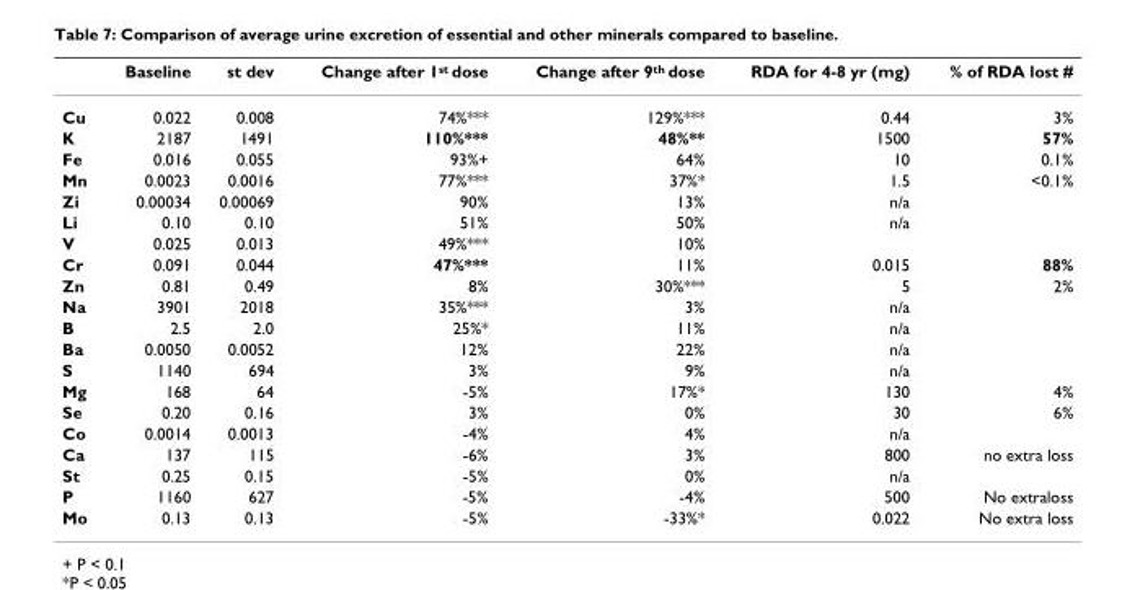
<table><thead><tr><td></td><td>Baseline</td><td>st dev</td><td>Change after 1<sup>st</sup> dose</td><td>Change after 9<sup>th</sup> dose</td><td>RDA for 4-8 yr (mg)</td><td>% of RDA lost #</td></tr></thead><tbody><tr><td>Cu</td><td>0.022</td><td>0.008</td><td>74%***</td><td>129%***</td><td>0.44</td><td>3%</td></tr><tr><td>K</td><td>2187</td><td>1491</td><td>110%***</td><td>48%**</td><td>1500</td><td>57%</td></tr><tr><td>Fe</td><td>0.016</td><td>0.055</td><td>93%+</td><td>64%</td><td>10</td><td>0.1%</td></tr><tr><td>Mn</td><td>0.0023</td><td>0.0016</td><td>77%***</td><td>37%*</td><td>1.5</td><td>&lt;0.1%</td></tr><tr><td>Zi</td><td>0.00034</td><td>0.00069</td><td>90%</td><td>13%</td><td>n/a</td><td></td></tr><tr><td>Li</td><td>0.10</td><td>0.10</td><td>51%</td><td>50%</td><td>n/a</td><td></td></tr><tr><td>V</td><td>0.025</td><td>0.013</td><td>49%***</td><td>10%</td><td></td><td></td></tr><tr><td>Cr</td><td>0.091</td><td>0.044</td><td>47%***</td><td>11%</td><td>0.015</td><td>88%</td></tr><tr><td>Zn</td><td>0.81</td><td>0.49</td><td>8%</td><td>30%***</td><td>5</td><td>2%</td></tr><tr><td>Na</td><td>3901</td><td>2018</td><td>35%***</td><td>3%</td><td>n/a</td><td></td></tr><tr><td>B</td><td>2.5</td><td>2.0</td><td>25%*</td><td>11%</td><td>n/a</td><td></td></tr><tr><td>Ba</td><td>0.0050</td><td>0.0052</td><td>12%</td><td>22%</td><td>n/a</td><td></td></tr><tr><td>S</td><td>1140</td><td>694</td><td>3%</td><td>9%</td><td>n/a</td><td></td></tr><tr><td>Mg</td><td>168</td><td>64</td><td>-5%</td><td>17%*</td><td>130</td><td>4%</td></tr><tr><td>Se</td><td>0.20</td><td>0.16</td><td>3%</td><td>0%</td><td>30</td><td>6%</td></tr><tr><td>Co</td><td>0.0014</td><td>0.0013</td><td>-4%</td><td>4%</td><td>n/a</td><td></td></tr><tr><td>Ca</td><td>137</td><td>115</td><td>-6%</td><td>3%</td><td>800</td><td>no extra loss</td></tr><tr><td>St</td><td>0.25</td><td>0.15</td><td>-5%</td><td>0%</td><td>n/a</td><td></td></tr><tr><td>P</td><td>1160</td><td>627</td><td>-5%</td><td>-4%</td><td>500</td><td>No extraloss</td></tr><tr><td>Mo</td><td>0.13</td><td>0.13</td><td>-5%</td><td>-33%*</td><td>0.022</td><td>No extra loss</td></tr></tbody></table>